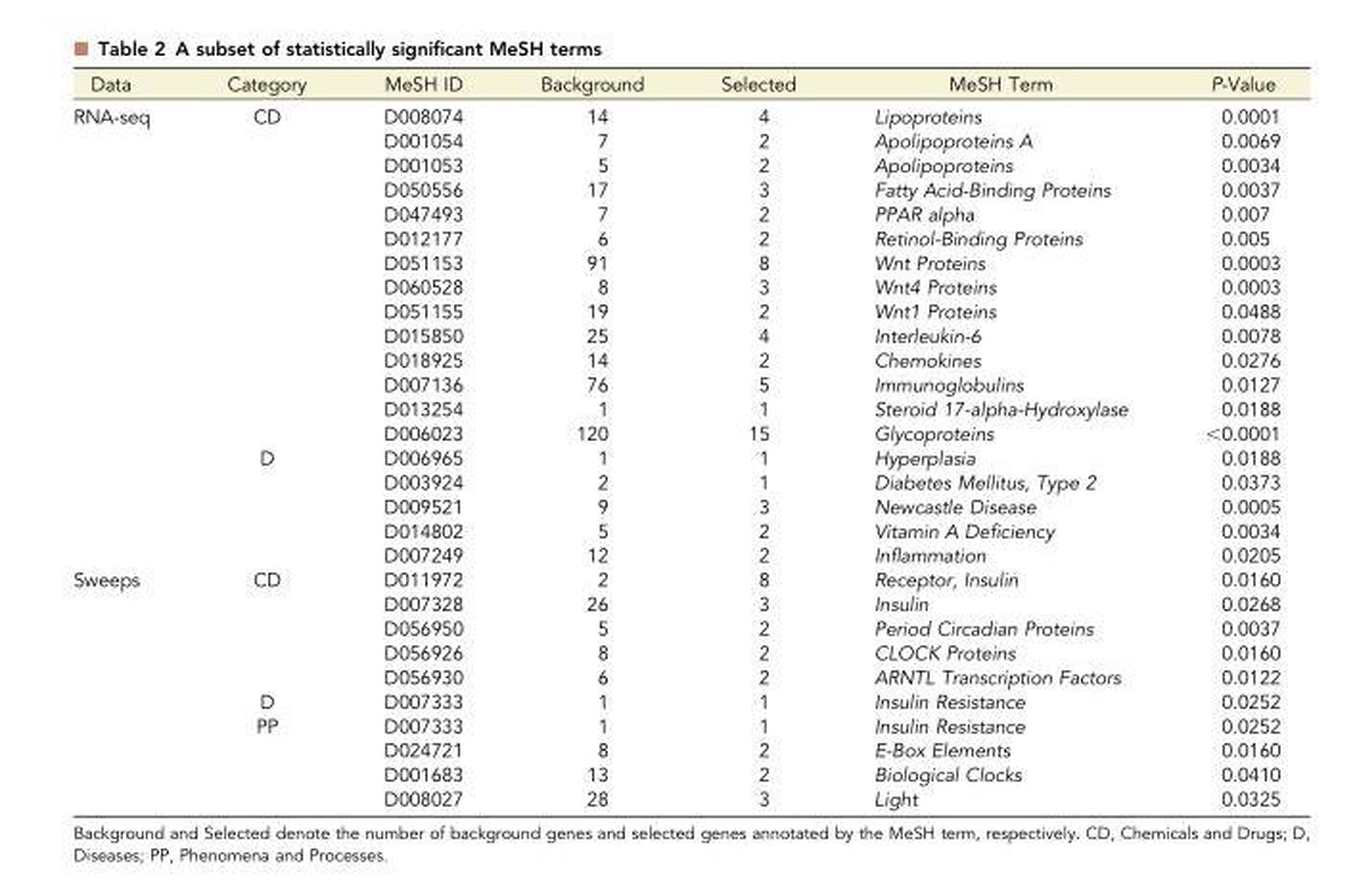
<table><thead><tr><td>Data</td><td>Category</td><td>MeSH ID</td><td>Background</td><td>Selected</td><td>MeSH Term</td><td>P-Value</td></tr></thead><tbody><tr><td rowspan="19">RNA-seq</td><td>CD</td><td>D008074</td><td>14</td><td>4</td><td>Lipoproteins</td><td>0.0001</td></tr><tr><td></td><td>D001054</td><td>7</td><td>2</td><td>Apolipoproteins A</td><td>0.0069</td></tr><tr><td></td><td>D001053</td><td>5</td><td>2</td><td>Apolipoproteins</td><td>0.0034</td></tr><tr><td></td><td>D050556</td><td>17</td><td>3</td><td>Fatty Acid-Binding Proteins</td><td>0.0037</td></tr><tr><td></td><td>D047493</td><td>7</td><td>2</td><td>PPAR alpha</td><td>0.007</td></tr><tr><td></td><td>D012177</td><td>6</td><td>2</td><td>Retinol-Binding Proteins</td><td>0.005</td></tr><tr><td></td><td>D051153</td><td>91</td><td>8</td><td>Wnt Proteins</td><td>0.0003</td></tr><tr><td></td><td>D060528</td><td>8</td><td>3</td><td>Wnt4 Proteins</td><td>0.0003</td></tr><tr><td></td><td>D051155</td><td>19</td><td>2</td><td>Wnt1 Proteins</td><td>0.0488</td></tr><tr><td></td><td>D015850</td><td>25</td><td>4</td><td>Interleukin-6</td><td>0.0078</td></tr><tr><td></td><td>D018925</td><td>14</td><td>2</td><td>Chemokines</td><td>0.0276</td></tr><tr><td></td><td>D007136</td><td>76</td><td>5</td><td>Immunoglobulins</td><td>0.0127</td></tr><tr><td></td><td>D013254</td><td>1</td><td>1</td><td>Steroid 17-alpha-Hydroxylase</td><td>0.0188</td></tr><tr><td></td><td>D006023</td><td>120</td><td>15</td><td>Glycoproteins</td><td>&lt;0.0001</td></tr><tr><td>D</td><td>D006965</td><td>1</td><td>1</td><td>Hyperplasia</td><td>0.0188</td></tr><tr><td></td><td>D003924</td><td>2</td><td>1</td><td>Diabetes Mellitus, Type 2</td><td>0.0373</td></tr><tr><td></td><td>D009521</td><td>9</td><td>3</td><td>Newcastle Disease</td><td>0.0005</td></tr><tr><td></td><td>D014802</td><td>5</td><td>2</td><td>Vitamin A Deficiency</td><td>0.0034</td></tr><tr><td></td><td>D007249</td><td>12</td><td>2</td><td>Inflammation</td><td>0.0205</td></tr><tr><td rowspan="10">Sweeps</td><td>CD</td><td>D011972</td><td>2</td><td>8</td><td>Receptor, Insulin</td><td>0.0160</td></tr><tr><td></td><td>D007328</td><td>26</td><td>3</td><td>Insulin</td><td>0.0268</td></tr><tr><td></td><td>D056950</td><td>5</td><td>2</td><td>Period Circadian Proteins</td><td>0.0037</td></tr><tr><td></td><td>D056926</td><td>8</td><td>2</td><td>CLOCK Proteins</td><td>0.0160</td></tr><tr><td></td><td>D056930</td><td>6</td><td>2</td><td>ARNTL Transcription Factors</td><td>0.0122</td></tr><tr><td>D</td><td>D007333</td><td>1</td><td>1</td><td>Insulin Resistance</td><td>0.0252</td></tr><tr><td>PP</td><td>D007333</td><td>1</td><td>1</td><td>Insulin Resistance</td><td>0.0252</td></tr><tr><td></td><td>D024721</td><td>8</td><td>2</td><td>E-Box Elements</td><td>0.0160</td></tr><tr><td></td><td>D001683</td><td>13</td><td>2</td><td>Biological Clocks</td><td>0.0410</td></tr><tr><td></td><td>D008027</td><td>28</td><td>3</td><td>Light</td><td>0.0325</td></tr></tbody></table>